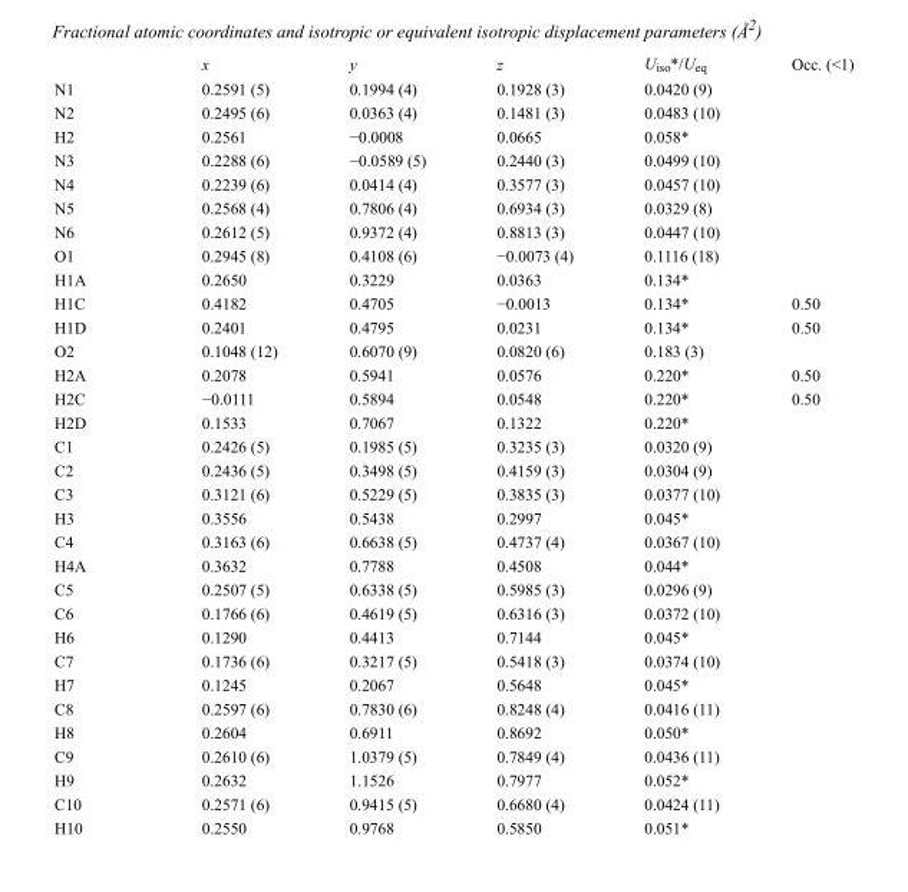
<table><thead><tr><td></td><td>x</td><td>y</td><td>z</td><td>U<sub>iso</sub>*/U<sub>eq</sub></td><td>Occ. (&lt;1)</td></tr></thead><tbody><tr><td>N1</td><td>0.2591 (5)</td><td>0.1994 (4)</td><td>0.1928 (3)</td><td>0.0420 (9)</td><td></td></tr><tr><td>N2</td><td>0.2495 (6)</td><td>0.0363 (4)</td><td>0.1481 (3)</td><td>0.0483 (10)</td><td></td></tr><tr><td>H2</td><td>0.2561</td><td>−0.0008</td><td>0.0665</td><td>0.058*</td><td></td></tr><tr><td>N3</td><td>0.2288 (6)</td><td>−0.0589 (5)</td><td>0.2440 (3)</td><td>0.0499 (10)</td><td></td></tr><tr><td>N4</td><td>0.2239 (6)</td><td>0.0414 (4)</td><td>0.3577 (3)</td><td>0.0457 (10)</td><td></td></tr><tr><td>N5</td><td>0.2568 (4)</td><td>0.7806 (4)</td><td>0.6934 (3)</td><td>0.0329 (8)</td><td></td></tr><tr><td>N6</td><td>0.2612 (5)</td><td>0.9372 (4)</td><td>0.8813 (3)</td><td>0.0447 (10)</td><td></td></tr><tr><td>O1</td><td>0.2945 (8)</td><td>0.4108 (6)</td><td>−0.0073 (4)</td><td>0.1116 (18)</td><td></td></tr><tr><td>H1A</td><td>0.2650</td><td>0.3229</td><td>0.0363</td><td>0.134*</td><td></td></tr><tr><td>H1C</td><td>0.4182</td><td>0.4705</td><td>−0.0013</td><td>0.134*</td><td>0.50</td></tr><tr><td>H1D</td><td>0.2401</td><td>0.4795</td><td>0.0231</td><td>0.134*</td><td>0.50</td></tr><tr><td>O2</td><td>0.1048 (12)</td><td>0.6070 (9)</td><td>0.0820 (6)</td><td>0.183 (3)</td><td></td></tr><tr><td>H2A</td><td>0.2078</td><td>0.5941</td><td>0.0576</td><td>0.220*</td><td>0.50</td></tr><tr><td>H2C</td><td>−0.0111</td><td>0.5894</td><td>0.0548</td><td>0.220*</td><td>0.50</td></tr><tr><td>H2D</td><td>0.1533</td><td>0.7067</td><td>0.1322</td><td>0.220*</td><td></td></tr><tr><td>C1</td><td>0.2426 (5)</td><td>0.1985 (5)</td><td>0.3235 (3)</td><td>0.0320 (9)</td><td></td></tr><tr><td>C2</td><td>0.2436 (5)</td><td>0.3498 (5)</td><td>0.4159 (3)</td><td>0.0304 (9)</td><td></td></tr><tr><td>C3</td><td>0.3121 (6)</td><td>0.5229 (5)</td><td>0.3835 (3)</td><td>0.0377 (10)</td><td></td></tr><tr><td>H3</td><td>0.3556</td><td>0.5438</td><td>0.2997</td><td>0.045*</td><td></td></tr><tr><td>C4</td><td>0.3163 (6)</td><td>0.6638 (5)</td><td>0.4737 (4)</td><td>0.0367 (10)</td><td></td></tr><tr><td>H4A</td><td>0.3632</td><td>0.7788</td><td>0.4508</td><td>0.044*</td><td></td></tr><tr><td>C5</td><td>0.2507 (5)</td><td>0.6338 (5)</td><td>0.5985 (3)</td><td>0.0296 (9)</td><td></td></tr><tr><td>C6</td><td>0.1766 (6)</td><td>0.4619 (5)</td><td>0.6316 (3)</td><td>0.0372 (10)</td><td></td></tr><tr><td>H6</td><td>0.1290</td><td>0.4413</td><td>0.7144</td><td>0.045*</td><td></td></tr><tr><td>C7</td><td>0.1736 (6)</td><td>0.3217 (5)</td><td>0.5418 (3)</td><td>0.0374 (10)</td><td></td></tr><tr><td>H7</td><td>0.1245</td><td>0.2067</td><td>0.5648</td><td>0.045*</td><td></td></tr><tr><td>C8</td><td>0.2597 (6)</td><td>0.7830 (6)</td><td>0.8248 (4)</td><td>0.0416 (11)</td><td></td></tr><tr><td>H8</td><td>0.2604</td><td>0.6911</td><td>0.8692</td><td>0.050*</td><td></td></tr><tr><td>C9</td><td>0.2610 (6)</td><td>1.0379 (5)</td><td>0.7849 (4)</td><td>0.0436 (11)</td><td></td></tr><tr><td>H9</td><td>0.2632</td><td>1.1526</td><td>0.7977</td><td>0.052*</td><td></td></tr><tr><td>C10</td><td>0.2571 (6)</td><td>0.9415 (5)</td><td>0.6680 (4)</td><td>0.0424 (11)</td><td></td></tr><tr><td>H10</td><td>0.2550</td><td>0.9768</td><td>0.5850</td><td>0.051*</td><td></td></tr></tbody></table>